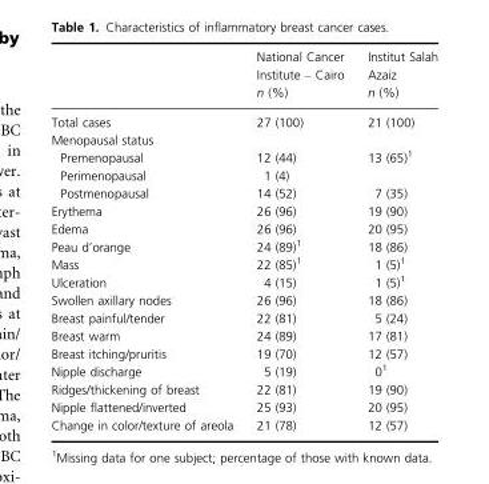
<table><thead><tr><td></td><td>National Cancer Institute – Cairo n (%)</td><td>Institut Salah Azaiz n (%)</td></tr></thead><tbody><tr><td>Total cases</td><td>27 (100)</td><td>21 (100)</td></tr><tr><td colspan="3">Menopausal status</td></tr><tr><td>Premenopausal</td><td>12 (44)</td><td>13 (65)<sup>1</sup></td></tr><tr><td>Perimenopausal</td><td>1 (4)</td><td></td></tr><tr><td>Postmenopausal</td><td>14 (52)</td><td>7 (35)</td></tr><tr><td>Erythema</td><td>26 (96)</td><td>19 (90)</td></tr><tr><td>Edema</td><td>26 (96)</td><td>20 (95)</td></tr><tr><td>Peau d’orange</td><td>24 (89)<sup>1</sup></td><td>18 (86)</td></tr><tr><td>Mass</td><td>22 (85)<sup>1</sup></td><td>1 (5)<sup>1</sup></td></tr><tr><td>Ulceration</td><td>4 (15)</td><td>1 (5)<sup>1</sup></td></tr><tr><td>Swollen axillary nodes</td><td>26 (96)</td><td>18 (86)</td></tr><tr><td>Breast painful/tender</td><td>22 (81)</td><td>5 (24)</td></tr><tr><td>Breast warm</td><td>24 (89)</td><td>17 (81)</td></tr><tr><td>Breast itching/pruritis</td><td>19 (70)</td><td>12 (57)</td></tr><tr><td>Nipple discharge</td><td>5 (19)</td><td>0<sup>1</sup></td></tr><tr><td>Ridges/thickening of breast</td><td>22 (81)</td><td>19 (90)</td></tr><tr><td>Nipple flattened/inverted</td><td>25 (93)</td><td>20 (95)</td></tr><tr><td>Change in color/texture of areola</td><td>21 (78)</td><td>12 (57)</td></tr></tbody></table>